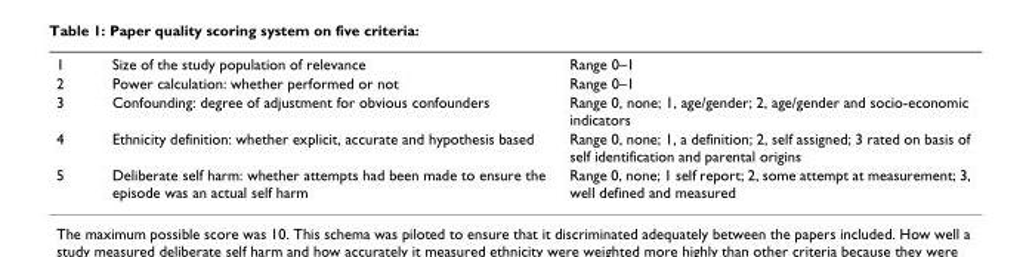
<table><tbody><tr><td>1</td><td>Size of the study population of relevance</td><td>Range 0–1</td></tr><tr><td>2</td><td>Power calculation: whether performed or not</td><td>Range 0–1</td></tr><tr><td>3</td><td>Confounding: degree of adjustment for obvious confounders</td><td>Range 0, none; 1, age/gender; 2, age/gender and socio-economic indicators</td></tr><tr><td>4</td><td>Ethnicity definition: whether explicit, accurate and hypothesis based</td><td>Range 0, none; 1, a definition; 2, self assigned; 3 rated on basis of self identification and parental origins</td></tr><tr><td>5</td><td>Deliberate self harm: whether attempts had been made to ensure the episode was an actual self harm</td><td>Range 0, none; 1 self report; 2, some attempt at measurement; 3, well defined and measured</td></tr></tbody></table>